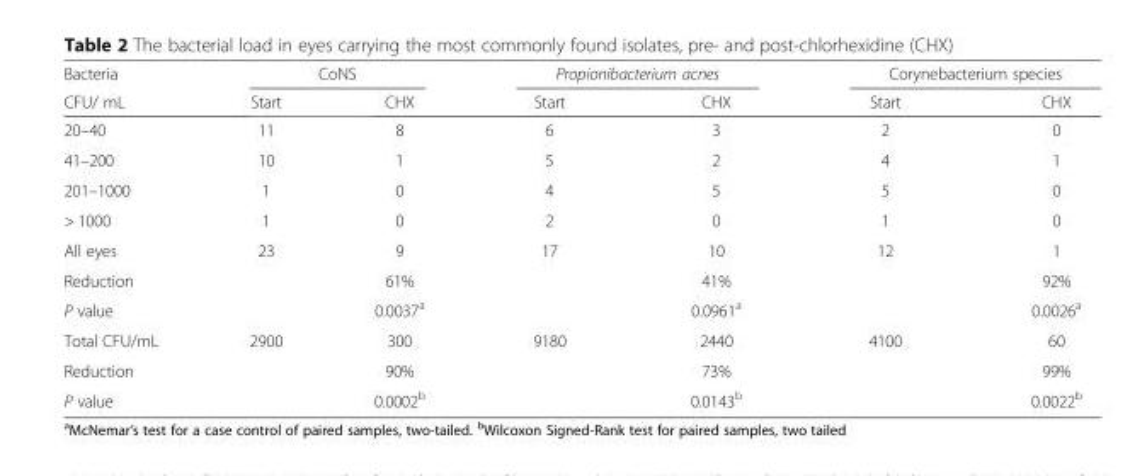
<table><thead><tr><td rowspan="2">Bacteria CFU/ mL</td><td colspan="2">CoNS</td><td colspan="2">Propionibacterium acnes</td><td colspan="2">Corynebacterium species</td></tr><tr><td>Start</td><td>CHX</td><td>Start</td><td>CHX</td><td>Start</td><td>CHX</td></tr></thead><tbody><tr><td>20–40</td><td>11</td><td>8</td><td>6</td><td>3</td><td>2</td><td>0</td></tr><tr><td>41–200</td><td>10</td><td>1</td><td>5</td><td>2</td><td>4</td><td>1</td></tr><tr><td>201–1000</td><td>1</td><td>0</td><td>4</td><td>5</td><td>5</td><td>0</td></tr><tr><td>&gt; 1000</td><td>1</td><td>0</td><td>2</td><td>0</td><td>1</td><td>0</td></tr><tr><td>All eyes</td><td>23</td><td>9</td><td>17</td><td>10</td><td>12</td><td>1</td></tr><tr><td>Reduction</td><td></td><td>61%</td><td></td><td>41%</td><td></td><td>92%</td></tr><tr><td>P value</td><td></td><td>0.0037<sup>a</sup></td><td></td><td>0.0961<sup>a</sup></td><td></td><td>0.0026<sup>a</sup></td></tr><tr><td>Total CFU/mL</td><td>2900</td><td>300</td><td>9180</td><td>2440</td><td>4100</td><td>60</td></tr><tr><td>Reduction</td><td></td><td>90%</td><td></td><td>73%</td><td></td><td>99%</td></tr><tr><td>P value</td><td></td><td>0.0002<sup>b</sup></td><td></td><td>0.0143<sup>b</sup></td><td></td><td>0.0022<sup>b</sup></td></tr></tbody></table>